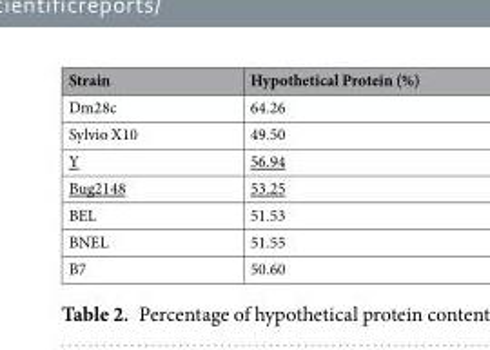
<table><thead><tr><td>Strain</td><td>Hypothetical Protein (%)</td></tr></thead><tbody><tr><td>Dm28c</td><td>64.26</td></tr><tr><td>Sylvio X10</td><td>49.50</td></tr><tr><td>Y</td><td>56.94</td></tr><tr><td>Bug2148</td><td>53.25</td></tr><tr><td>BEL</td><td>51.53</td></tr><tr><td>BNEL</td><td>51.55</td></tr><tr><td>B7</td><td>50.60</td></tr></tbody></table>